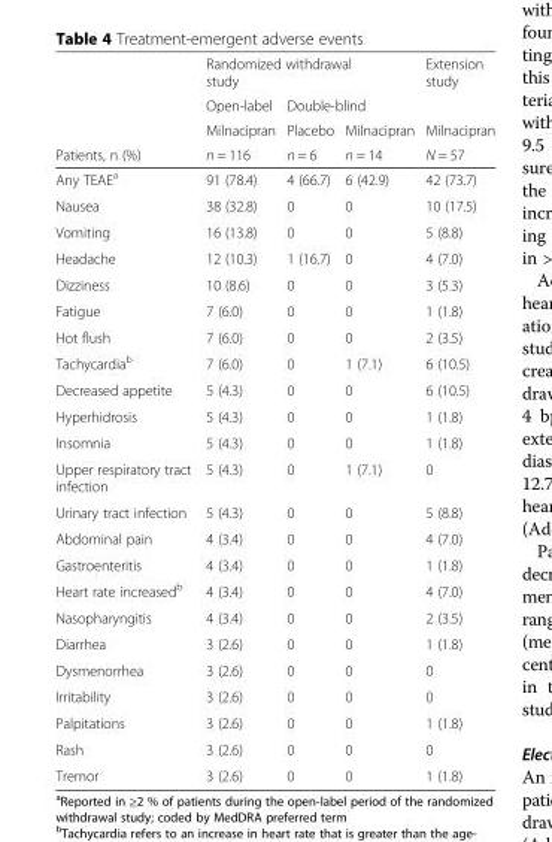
<table><thead><tr><td rowspan="4">Patients, n (%)</td><td colspan="3">Randomized withdrawal study</td><td rowspan="4">Extension study Milnacipran N = 57</td></tr><tr><td rowspan="3">Open-label Milnacipran n = 116</td><td colspan="2">Double-blind</td></tr><tr><td rowspan="2">Placebo n = 6</td><td rowspan="2">Milnacipran n = 14</td></tr><tr></tr></thead><tbody><tr><td>Any TEAE<sup>a</sup></td><td>91 (78.4)</td><td>4 (66.7)</td><td>6 (42.9)</td><td>42 (73.7)</td></tr><tr><td>Nausea</td><td>38 (32.8)</td><td>0</td><td>0</td><td>10 (17.5)</td></tr><tr><td>Vomiting</td><td>16 (13.8)</td><td>0</td><td>0</td><td>5 (8.8)</td></tr><tr><td>Headache</td><td>12 (10.3)</td><td>1 (16.7)</td><td>0</td><td>4 (7.0)</td></tr><tr><td>Dizziness</td><td>10 (8.6)</td><td>0</td><td>0</td><td>3 (5.3)</td></tr><tr><td>Fatigue</td><td>7 (6.0)</td><td>0</td><td>0</td><td>1 (1.8)</td></tr><tr><td>Hot flush</td><td>7 (6.0)</td><td>0</td><td>0</td><td>2 (3.5)</td></tr><tr><td>Tachycardia<sup>b</sup></td><td>7 (6.0)</td><td>0</td><td>1 (7.1)</td><td>6 (10.5)</td></tr><tr><td>Decreased appetite</td><td>5 (4.3)</td><td>0</td><td>0</td><td>6 (10.5)</td></tr><tr><td>Hyperhidrosis</td><td>5 (4.3)</td><td>0</td><td>0</td><td>1 (1.8)</td></tr><tr><td>Insomnia</td><td>5 (4.3)</td><td>0</td><td>0</td><td>1 (1.8)</td></tr><tr><td>Upper respiratory tract infection</td><td>5 (4.3)</td><td>0</td><td>1 (7.1)</td><td>0</td></tr><tr><td>Urinary tract infection</td><td>5 (4.3)</td><td>0</td><td>0</td><td>5 (8.8)</td></tr><tr><td>Abdominal pain</td><td>4 (3.4)</td><td>0</td><td>0</td><td>4 (7.0)</td></tr><tr><td>Gastroenteritis</td><td>4 (3.4)</td><td>0</td><td>0</td><td>1 (1.8)</td></tr><tr><td>Heart rate increased<sup>b</sup></td><td>4 (3.4)</td><td>0</td><td>0</td><td>4 (7.0)</td></tr><tr><td>Nasopharyngitis</td><td>4 (3.4)</td><td>0</td><td>0</td><td>2 (3.5)</td></tr><tr><td>Diarrhea</td><td>3 (2.6)</td><td>0</td><td>0</td><td>1 (1.8)</td></tr><tr><td>Dysmenorrhea</td><td>3 (2.6)</td><td>0</td><td>0</td><td>0</td></tr><tr><td>Irritability</td><td>3 (2.6)</td><td>0</td><td>0</td><td>0</td></tr><tr><td>Palpitations</td><td>3 (2.6)</td><td>0</td><td>0</td><td>1 (1.8)</td></tr><tr><td>Rash</td><td>3 (2.6)</td><td>0</td><td>0</td><td>0</td></tr><tr><td>Tremor</td><td>3 (2.6)</td><td>0</td><td>0</td><td>1 (1.8)</td></tr></tbody></table>